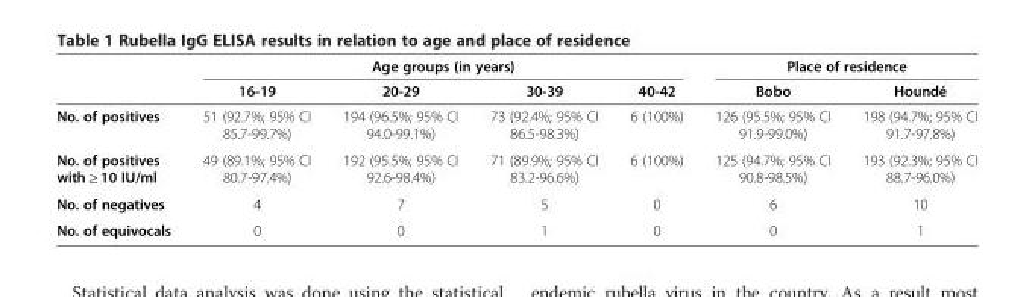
<table><thead><tr><td rowspan="2"></td><td colspan="4">Age groups (in years)</td><td colspan="2">Place of residence</td></tr><tr><td>16-19</td><td>20-29</td><td>30-39</td><td>40-42</td><td>Bobo</td><td>Houndé</td></tr></thead><tbody><tr><td>No. of positives</td><td>51 (92.7%; 95% CI 85.7-99.7%)</td><td>194 (96.5%; 95% CI 94.0-99.1%)</td><td>73 (92.4%; 95% CI 86.5-98.3%)</td><td>6 (100%)</td><td>126 (95.5%; 95% CI 91.9-99.0%)</td><td>198 (94.7%; 95% CI 91.7-97.8%)</td></tr><tr><td>No. of positives with ≥ 10 IU/ml</td><td>49 (89.1%; 95% CI 80.7-97.4%)</td><td>192 (95.5%; 95% CI 92.6-98.4%)</td><td>71 (89.9%; 95% CI 83.2-96.6%)</td><td>6 (100%)</td><td>125 (94.7%; 95% CI 90.8-98.5%)</td><td>193 (92.3%; 95% CI 88.7-96.0%)</td></tr><tr><td>No. of negatives</td><td>4</td><td>7</td><td>5</td><td>0</td><td>6</td><td>10</td></tr><tr><td>No. of equivocals</td><td>0</td><td>0</td><td>1</td><td>0</td><td>0</td><td>1</td></tr></tbody></table>